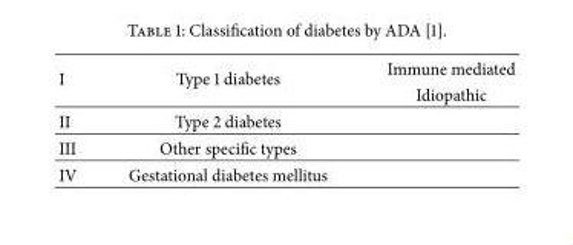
<table><tbody><tr><td rowspan="2">I</td><td rowspan="2">Type 1 diabetes</td><td>Immune mediated</td></tr><tr><td>Idiopathic</td></tr><tr><td>II</td><td>Type 2 diabetes</td><td></td></tr><tr><td>III</td><td>Other specific types</td><td></td></tr><tr><td>IV</td><td>Gestational diabetes mellitus</td><td></td></tr></tbody></table>